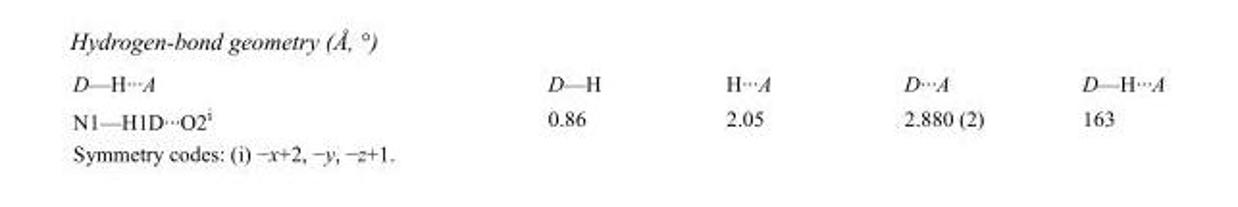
<table><tbody><tr><td>D—H···A</td><td>D—H</td><td>H···A</td><td>D···A</td><td>D—H···A</td></tr><tr><td>N1—H1D···O2<sup>i</sup></td><td>0.86</td><td>2.05</td><td>2.880 (2)</td><td>163</td></tr></tbody></table>